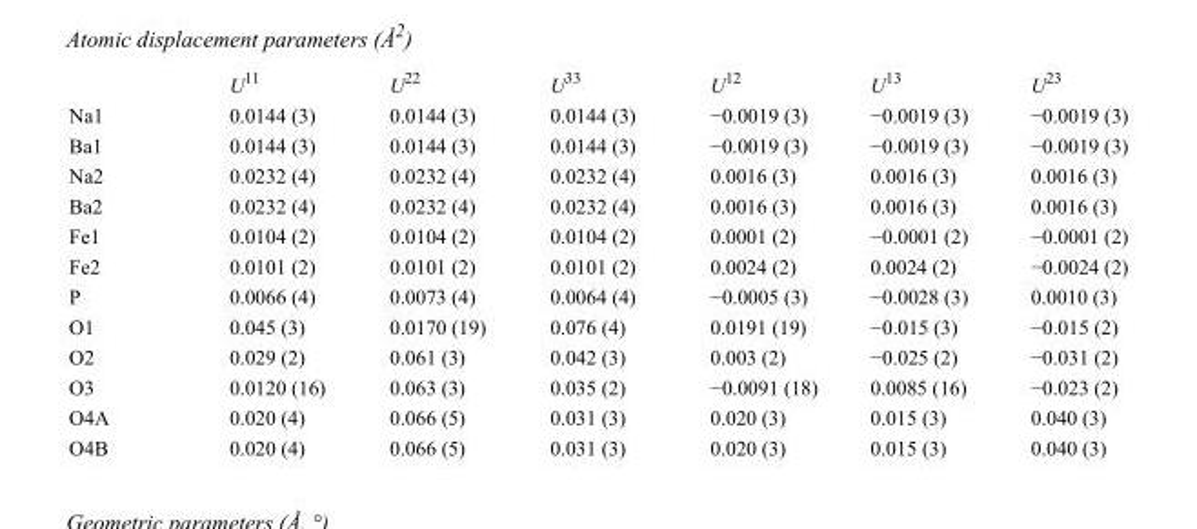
<table><thead><tr><td></td><td>U<sup>11</sup></td><td>U<sup>22</sup></td><td>U<sup>33</sup></td><td>U<sup>12</sup></td><td>U<sup>13</sup></td><td>U<sup>23</sup></td></tr></thead><tbody><tr><td>Na1</td><td>0.0144 (3)</td><td>0.0144 (3)</td><td>0.0144 (3)</td><td>−0.0019 (3)</td><td>−0.0019 (3)</td><td>−0.0019 (3)</td></tr><tr><td>Ba1</td><td>0.0144 (3)</td><td>0.0144 (3)</td><td>0.0144 (3)</td><td>−0.0019 (3)</td><td>−0.0019 (3)</td><td>−0.0019 (3)</td></tr><tr><td>Na2</td><td>0.0232 (4)</td><td>0.0232 (4)</td><td>0.0232 (4)</td><td>0.0016 (3)</td><td>0.0016 (3)</td><td>0.0016 (3)</td></tr><tr><td>Ba2</td><td>0.0232 (4)</td><td>0.0232 (4)</td><td>0.0232 (4)</td><td>0.0016 (3)</td><td>0.0016 (3)</td><td>0.0016 (3)</td></tr><tr><td>Fe1</td><td>0.0104 (2)</td><td>0.0104 (2)</td><td>0.0104 (2)</td><td>0.0001 (2)</td><td>−0.0001 (2)</td><td>−0.0001 (2)</td></tr><tr><td>Fe2</td><td>0.0101 (2)</td><td>0.0101 (2)</td><td>0.0101 (2)</td><td>0.0024 (2)</td><td>0.0024 (2)</td><td>−0.0024 (2)</td></tr><tr><td>P</td><td>0.0066 (4)</td><td>0.0073 (4)</td><td>0.0064 (4)</td><td>−0.0005 (3)</td><td>−0.0028 (3)</td><td>0.0010 (3)</td></tr><tr><td>O1</td><td>0.045 (3)</td><td>0.0170 (19)</td><td>0.076 (4)</td><td>0.0191 (19)</td><td>−0.015 (3)</td><td>−0.015 (2)</td></tr><tr><td>O2</td><td>0.029 (2)</td><td>0.061 (3)</td><td>0.042 (3)</td><td>0.003 (2)</td><td>−0.025 (2)</td><td>−0.031 (2)</td></tr><tr><td>O3</td><td>0.0120 (16)</td><td>0.063 (3)</td><td>0.035 (2)</td><td>−0.0091 (18)</td><td>0.0085 (16)</td><td>−0.023 (2)</td></tr><tr><td>O4A</td><td>0.020 (4)</td><td>0.066 (5)</td><td>0.031 (3)</td><td>0.020 (3)</td><td>0.015 (3)</td><td>0.040 (3)</td></tr><tr><td>O4B</td><td>0.020 (4)</td><td>0.066 (5)</td><td>0.031 (3)</td><td>0.020 (3)</td><td>0.015 (3)</td><td>0.040 (3)</td></tr></tbody></table>